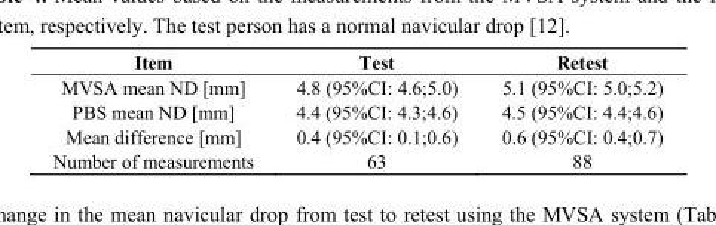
<table><thead><tr><td>Item</td><td>Test</td><td>Retest</td></tr></thead><tbody><tr><td>MVSA mean ND [mm]</td><td>4.8 (95%CI: 4.6;5.0)</td><td>5.1 (95%CI: 5.0;5.2)</td></tr><tr><td>PBS mean ND [mm]</td><td>4.4 (95%CI: 4.3;4.6)</td><td>4.5 (95%CI: 4.4;4.6)</td></tr><tr><td>Mean difference [mm]</td><td>0.4 (95%CI: 0.1;0.6)</td><td>0.6 (95%CI: 0.4;0.7)</td></tr><tr><td>Number of measurements</td><td>63</td><td>88</td></tr></tbody></table>